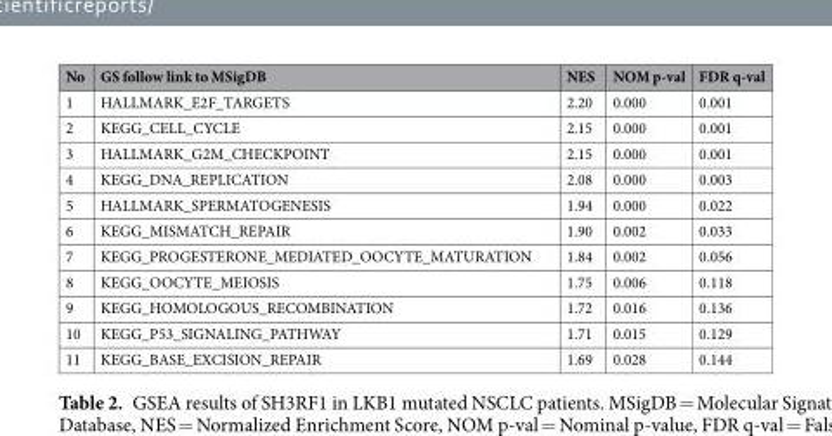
<table><thead><tr><td>No</td><td>GS follow link to MSigDB</td><td>NES</td><td>NOM p-val</td><td>FDR q-val</td></tr></thead><tbody><tr><td>1</td><td>HALLMARK_E2F_TARGETS</td><td>2.20</td><td>0.000</td><td>0.001</td></tr><tr><td>2</td><td>KEGG_CELL_CYCLE</td><td>2.15</td><td>0.000</td><td>0.001</td></tr><tr><td>3</td><td>HALLMARK_G2M_CHECKPOINT</td><td>2.15</td><td>0.000</td><td>0.001</td></tr><tr><td>4</td><td>KEGG_DNA_REPLICATION</td><td>2.08</td><td>0.000</td><td>0.003</td></tr><tr><td>5</td><td>HALLMARK_SPERMATOGENESIS</td><td>1.94</td><td>0.000</td><td>0.022</td></tr><tr><td>6</td><td>KEGG_MISMATCH_REPAIR</td><td>1.90</td><td>0.002</td><td>0.033</td></tr><tr><td>7</td><td>KEGG_PROGESTERONE_MEDIATED_OOCYTE_MATURATION</td><td>1.84</td><td>0.002</td><td>0.056</td></tr><tr><td>8</td><td>KEGG_OOCYTE_MEIOSIS</td><td>1.75</td><td>0.006</td><td>0.118</td></tr><tr><td>9</td><td>KEGG_HOMOLOGOUS_RECOMBINATION</td><td>1.72</td><td>0.016</td><td>0.136</td></tr><tr><td>10</td><td>KEGG_P53_SIGNALING_PATHWAY</td><td>1.71</td><td>0.015</td><td>0.129</td></tr><tr><td>11</td><td>KEGG_BASE_EXCISION_REPAIR</td><td>1.69</td><td>0.028</td><td>0.144</td></tr></tbody></table>